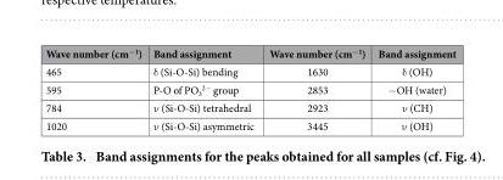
<table><thead><tr><td>Wave number (cm<sup>−1</sup>)</td><td>Band assignment</td><td>Wave number (cm<sup>−1</sup>)</td><td>Band assignment</td></tr></thead><tbody><tr><td>465</td><td>δ (Si-O-Si) bending</td><td>1630</td><td>δ (OH)</td></tr><tr><td>595</td><td>P-O of PO<sub>3</sub> <sup>2−</sup> group</td><td>2853</td><td>− OH (water)</td></tr><tr><td>784</td><td>ν (Si-O-Si) tetrahedral</td><td>2923</td><td>ν (CH)</td></tr><tr><td>1020</td><td>ν (Si-O-Si) asymmetric</td><td>3445</td><td>ν (OH)</td></tr></tbody></table>